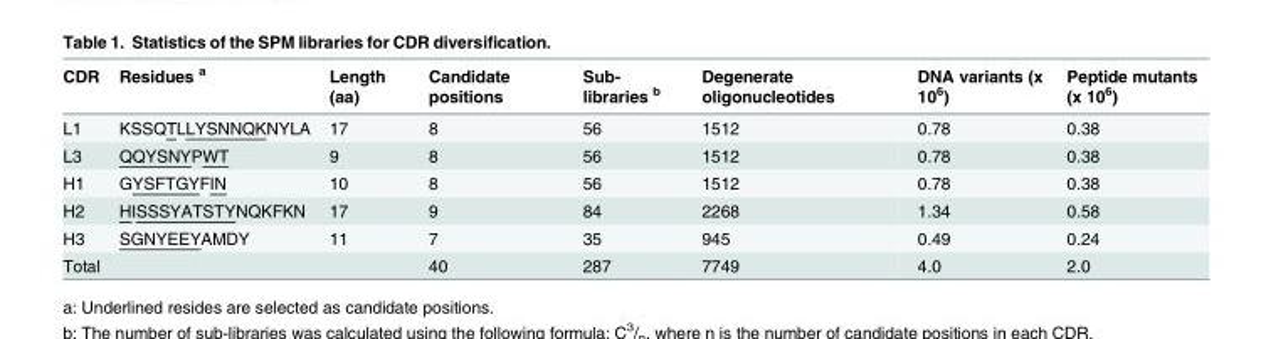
<table><thead><tr><td>CDR</td><td>Residues <sup>a</sup></td><td>Length (aa)</td><td>Candidate positions</td><td>Sub- libraries <sup>b</sup></td><td>Degenerate oligonucleotides</td><td>DNA variants (x 10<sup>6</sup>)</td><td>Peptide mutants (x 10<sup>6</sup>)</td></tr></thead><tbody><tr><td>L1</td><td>KSSQTLLYSNNQKNYLA</td><td>17</td><td>8</td><td>56</td><td>1512</td><td>0.78</td><td>0.38</td></tr><tr><td>L3</td><td>QQYSNYPWT</td><td>9</td><td>8</td><td>56</td><td>1512</td><td>0.78</td><td>0.38</td></tr><tr><td>H1</td><td>GYSFTGYFIN</td><td>10</td><td>8</td><td>56</td><td>1512</td><td>0.78</td><td>0.38</td></tr><tr><td>H2</td><td>HISSSYATSTYNQKFKN</td><td>17</td><td>9</td><td>84</td><td>2268</td><td>1.34</td><td>0.58</td></tr><tr><td>H3</td><td>SGNYEEYAMDY</td><td>11</td><td>7</td><td>35</td><td>945</td><td>0.49</td><td>0.24</td></tr><tr><td>Total</td><td></td><td></td><td>40</td><td>287</td><td>7749</td><td>4.0</td><td>2.0</td></tr></tbody></table>